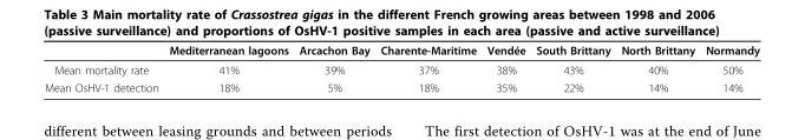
<table><thead><tr><td></td><td>Mediterranean lagoons</td><td>Arcachon Bay</td><td>Charente-Maritime</td><td>Vendée</td><td>South Brittany</td><td>North Brittany</td><td>Normandy</td></tr></thead><tbody><tr><td>Mean mortality rate</td><td>41%</td><td>39%</td><td>37%</td><td>38%</td><td>43%</td><td>40%</td><td>50%</td></tr><tr><td>Mean OsHV-1 detection</td><td>18%</td><td>5%</td><td>18%</td><td>35%</td><td>22%</td><td>14%</td><td>14%</td></tr></tbody></table>